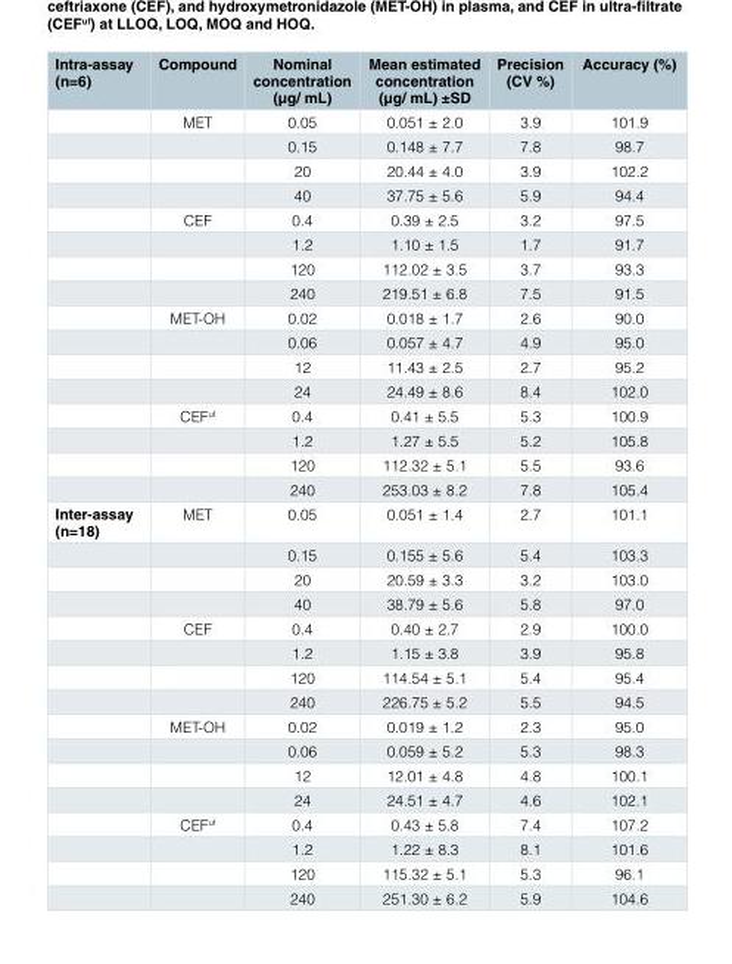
<table><thead><tr><td>Intra-assay (n=6)</td><td>Compound</td><td>Nominal concentration (µg/ mL)</td><td>Mean estimated concentration (µg/ mL) ±SD</td><td>Precision (CV %)</td><td>Accuracy (%)</td></tr></thead><tbody><tr><td></td><td>MET</td><td>0.05</td><td>0.051 ± 2.0</td><td>3.9</td><td>101.9</td></tr><tr><td></td><td></td><td>0.15</td><td>0.148 ± 7.7</td><td>7.8</td><td>98.7</td></tr><tr><td></td><td></td><td>20</td><td>20.44 ± 4.0</td><td>3.9</td><td>102.2</td></tr><tr><td></td><td></td><td>40</td><td>37.75 ± 5.6</td><td>5.9</td><td>94.4</td></tr><tr><td></td><td>CEF</td><td>0.4</td><td>0.39 ± 2.5</td><td>3.2</td><td>97.5</td></tr><tr><td></td><td></td><td>1.2</td><td>1.10 ± 1.5</td><td>1.7</td><td>91.7</td></tr><tr><td></td><td></td><td>120</td><td>112.02 ± 3.5</td><td>3.7</td><td>93.3</td></tr><tr><td></td><td></td><td>240</td><td>219.51 ± 6.8</td><td>7.5</td><td>91.5</td></tr><tr><td></td><td>MET-OH</td><td>0.02</td><td>0.018 ± 1.7</td><td>2.6</td><td>90.0</td></tr><tr><td></td><td></td><td>0.06</td><td>0.057 ± 4.7</td><td>4.9</td><td>95.0</td></tr><tr><td></td><td></td><td>12</td><td>11.43 ± 2.5</td><td>2.7</td><td>95.2</td></tr><tr><td></td><td></td><td>24</td><td>24.49 ± 8.6</td><td>8.4</td><td>102.0</td></tr><tr><td></td><td>CEF<sup>uf</sup></td><td>0.4</td><td>0.41 ± 5.5</td><td>5.3</td><td>100.9</td></tr><tr><td></td><td></td><td>1.2</td><td>1.27 ± 5.5</td><td>5.2</td><td>105.8</td></tr><tr><td></td><td></td><td>120</td><td>112.32 ± 5.1</td><td>5.5</td><td>93.6</td></tr><tr><td></td><td></td><td>240</td><td>253.03 ± 8.2</td><td>7.8</td><td>105.4</td></tr><tr><td rowspan="16">Inter-assay (n=18)</td><td>MET</td><td>0.05</td><td>0.051 ± 1.4</td><td>2.7</td><td>101.1</td></tr><tr><td></td><td>0.15</td><td>0.155 ± 5.6</td><td>5.4</td><td>103.3</td></tr><tr><td></td><td>20</td><td>20.59 ± 3.3</td><td>3.2</td><td>103.0</td></tr><tr><td></td><td>40</td><td>38.79 ± 5.6</td><td>5.8</td><td>97.0</td></tr><tr><td>CEF</td><td>0.4</td><td>0.40 ± 2.7</td><td>2.9</td><td>100.0</td></tr><tr><td></td><td>1.2</td><td>1.15 ± 3.8</td><td>3.9</td><td>95.8</td></tr><tr><td></td><td>120</td><td>114.54 ± 5.1</td><td>5.4</td><td>95.4</td></tr><tr><td></td><td>240</td><td>226.75 ± 5.2</td><td>5.5</td><td>94.5</td></tr><tr><td>MET-OH</td><td>0.02</td><td>0.019 ± 1.2</td><td>2.3</td><td>95.0</td></tr><tr><td></td><td>0.06</td><td>0.059 ± 5.2</td><td>5.3</td><td>98.3</td></tr><tr><td></td><td>12</td><td>12.01 ± 4.8</td><td>4.8</td><td>100.1</td></tr><tr><td></td><td>24</td><td>24.51 ± 4.7</td><td>4.6</td><td>102.1</td></tr><tr><td>CEF<sup>uf</sup></td><td>0.4</td><td>0.43 ± 5.8</td><td>7.4</td><td>107.2</td></tr><tr><td></td><td>1.2</td><td>1.22 ± 8.3</td><td>8.1</td><td>101.6</td></tr><tr><td></td><td>120</td><td>115.32 ± 5.1</td><td>5.3</td><td>96.1</td></tr><tr><td></td><td>240</td><td>251.30 ± 6.2</td><td>5.9</td><td>104.6</td></tr></tbody></table>